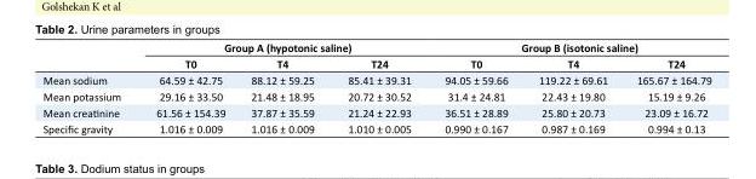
<table><thead><tr><td rowspan="2"></td><td colspan="3">Group A (hypotonic saline)</td><td colspan="3">Group B (isotonic saline)</td></tr><tr><td>T0</td><td>T4</td><td>T24</td><td>T0</td><td>T4</td><td>T24</td></tr></thead><tbody><tr><td>Mean sodium</td><td>64.59 ± 42.75</td><td>88.12 ± 59.25</td><td>85.41 ± 39.31</td><td>94.05 ± 59.66</td><td>119.22 ± 69.61</td><td>165.67 ± 164.79</td></tr><tr><td>Mean potassium</td><td>29.16 ± 33.50</td><td>21.48 ± 18.95</td><td>20.72 ± 30.52</td><td>31.4 ± 24.81</td><td>22.43 ± 19.80</td><td>15.19 ± 9.26</td></tr><tr><td>Mean creatinine</td><td>61.56 ± 154.39</td><td>37.87 ± 35.59</td><td>21.24 ± 22.93</td><td>36.51 ± 28.89</td><td>25.80 ± 20.73</td><td>23.09 ± 16.72</td></tr><tr><td>Specific gravity</td><td>1.016 ± 0.009</td><td>1.016 ± 0.009</td><td>1.010 ± 0.005</td><td>0.990 ± 0.167</td><td>0.987 ± 0.169</td><td>0.994 ± 0.13</td></tr></tbody></table>